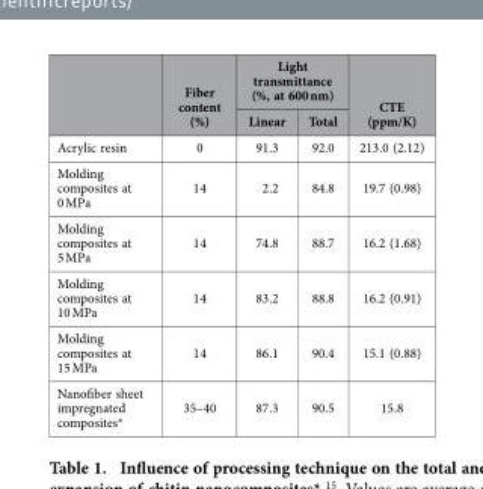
<table><thead><tr><td rowspan="2"></td><td rowspan="2">Fiber content (%)</td><td colspan="2">Light transmittance (%, at 600 nm)</td><td rowspan="2">CTE (ppm/K)</td></tr><tr><td>Linear</td><td>Total</td></tr></thead><tbody><tr><td>Acrylic resin</td><td>0</td><td>91.3</td><td>92.0</td><td>213.0 (2.12)</td></tr><tr><td>Molding composites at 0 MPa</td><td>14</td><td>2.2</td><td>84.8</td><td>19.7 (0.98)</td></tr><tr><td>Molding composites at 5 MPa</td><td>14</td><td>74.8</td><td>88.7</td><td>16.2 (1.68)</td></tr><tr><td>Molding composites at 10 MPa</td><td>14</td><td>83.2</td><td>88.8</td><td>16.2 (0.91)</td></tr><tr><td>Molding composites at 15 MPa</td><td>14</td><td>86.1</td><td>90.4</td><td>15.1 (0.88)</td></tr><tr><td>Nanofiber sheet impregnated composites*</td><td>35–40</td><td>87.3</td><td>90.5</td><td>15.8</td></tr></tbody></table>